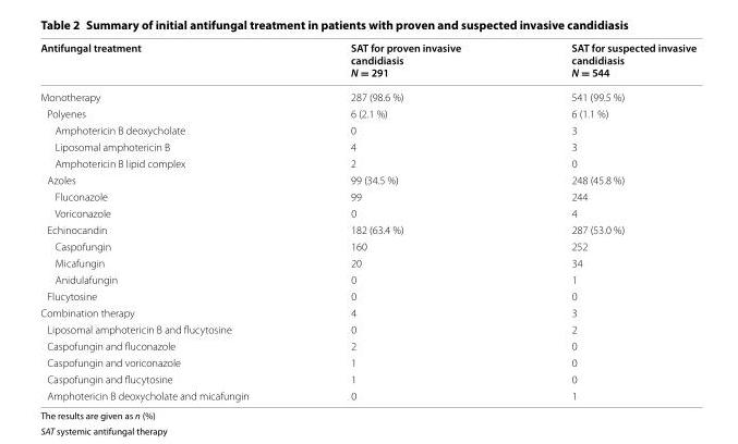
<table><thead><tr><td>Antifungal treatment</td><td>SAT for proven invasive candidiasis N = 291</td><td>SAT for suspected invasive candidiasis N = 544</td></tr></thead><tbody><tr><td>Monotherapy</td><td>287 (98.6 %)</td><td>541 (99.5 %)</td></tr><tr><td>Polyenes</td><td>6 (2.1 %)</td><td>6 (1.1 %)</td></tr><tr><td>Amphotericin B deoxycholate</td><td>0</td><td>3</td></tr><tr><td>Liposomal amphotericin B</td><td>4</td><td>3</td></tr><tr><td>Amphotericin B lipid complex</td><td>2</td><td>0</td></tr><tr><td>Azoles</td><td>99 (34.5 %)</td><td>248 (45.8 %)</td></tr><tr><td>Fluconazole</td><td>99</td><td>244</td></tr><tr><td>Voriconazole</td><td>0</td><td>4</td></tr><tr><td>Echinocandin</td><td>182 (63.4 %)</td><td>287 (53.0 %)</td></tr><tr><td>Caspofungin</td><td>160</td><td>252</td></tr><tr><td>Micafungin</td><td>20</td><td>34</td></tr><tr><td>Anidulafungin</td><td>0</td><td>1</td></tr><tr><td>Flucytosine</td><td>0</td><td>0</td></tr><tr><td>Combination therapy</td><td>4</td><td>3</td></tr><tr><td>Liposomal amphotericin B and flucytosine</td><td>0</td><td>2</td></tr><tr><td>Caspofungin and fluconazole</td><td>2</td><td>0</td></tr><tr><td>Caspofungin and voriconazole</td><td>1</td><td>0</td></tr><tr><td>Caspofungin and flucytosine</td><td>1</td><td>0</td></tr><tr><td>Amphotericin B deoxycholate and micafungin</td><td>0</td><td>1</td></tr></tbody></table>